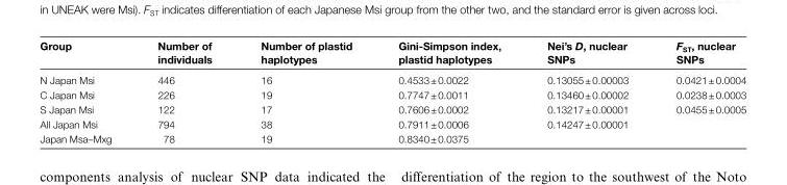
<table><thead><tr><td>Group</td><td>Number of individuals</td><td>Number of plastid haplotypes</td><td>Gini-Simpson index, plastid haplotypes</td><td>Nei’s D, nuclear SNPs</td><td>F<sub>ST</sub>, nuclear SNPs</td></tr></thead><tbody><tr><td>N Japan Msi</td><td>446</td><td>16</td><td>0.4533 ± 0.0022</td><td>0.13055 ± 0.00003</td><td>0.0421 ± 0.0004</td></tr><tr><td>C Japan Msi</td><td>226</td><td>19</td><td>0.7747 ± 0.0011</td><td>0.13460 ± 0.00002</td><td>0.0238 ± 0.0003</td></tr><tr><td>S Japan Msi</td><td>122</td><td>17</td><td>0.7606 ± 0.0002</td><td>0.13217 ± 0.00001</td><td>0.0455 ± 0.0005</td></tr><tr><td>All Japan Msi</td><td>794</td><td>38</td><td>0.7911 ± 0.0006</td><td>0.14247 ± 0.00001</td><td></td></tr><tr><td>Japan Msa–Mxg</td><td>78</td><td>19</td><td>0.8340 ± 0.0375</td><td></td><td></td></tr></tbody></table>